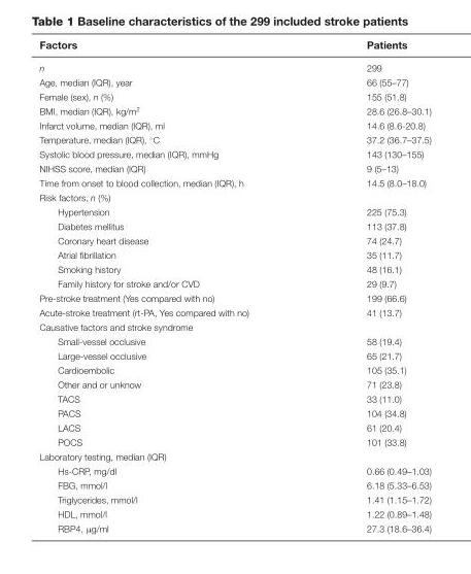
<table><thead><tr><td>Factors</td><td>Patients</td></tr></thead><tbody><tr><td>n</td><td>299</td></tr><tr><td>Age, median (IQR), year</td><td>66 (55–77)</td></tr><tr><td>Female (sex), n (%)</td><td>155 (51.8)</td></tr><tr><td>BMI, median (IQR), kg/m<sup>2</sup></td><td>28.6 (26.8–30.1)</td></tr><tr><td>Infarct volume, median (IQR), ml</td><td>14.6 (8.6-20.8)</td></tr><tr><td>Temperature, median (IQR), ◦C</td><td>37.2 (36.7–37.5)</td></tr><tr><td>Systolic blood pressure, median (IQR), mmHg</td><td>143 (130–155)</td></tr><tr><td>NIHSS score, median (IQR)</td><td>9 (5–13)</td></tr><tr><td>Time from onset to blood collection, median (IQR), h</td><td>14.5 (8.0–18.0)</td></tr><tr><td colspan="2">Risk factors, n (%)</td></tr><tr><td>Hypertension</td><td>225 (75.3)</td></tr><tr><td>Diabetes mellitus</td><td>113 (37.8)</td></tr><tr><td>Coronary heart disease</td><td>74 (24.7)</td></tr><tr><td>Atrial fibrillation</td><td>35 (11.7)</td></tr><tr><td>Smoking history</td><td>48 (16.1)</td></tr><tr><td>Family history for stroke and/or CVD</td><td>29 (9.7)</td></tr><tr><td>Pre-stroke treatment (Yes compared with no)</td><td>199 (66.6)</td></tr><tr><td>Acute-stroke treatment (rt-PA, Yes compared with no)</td><td>41 (13.7)</td></tr><tr><td colspan="2">Causative factors and stroke syndrome</td></tr><tr><td>Small-vessel occlusive</td><td>58 (19.4)</td></tr><tr><td>Large-vessel occlusive</td><td>65 (21.7)</td></tr><tr><td>Cardioembolic</td><td>105 (35.1)</td></tr><tr><td>Other and or unknow</td><td>71 (23.8)</td></tr><tr><td>TACS</td><td>33 (11.0)</td></tr><tr><td>PACS</td><td>104 (34.8)</td></tr><tr><td>LACS</td><td>61 (20.4)</td></tr><tr><td>POCS</td><td>101 (33.8)</td></tr><tr><td colspan="2">Laboratory testing, median (IQR)</td></tr><tr><td>Hs-CRP, mg/dl</td><td>0.66 (0.49–1.03)</td></tr><tr><td>FBG, mmol/l</td><td>6.18 (5.33–6.53)</td></tr><tr><td>Triglycerides, mmol/l</td><td>1.41 (1.15–1.72)</td></tr><tr><td>HDL, mmol/l</td><td>1.22 (0.89–1.48)</td></tr><tr><td>RBP4, μg/ml</td><td>27.3 (18.6–36.4)</td></tr></tbody></table>